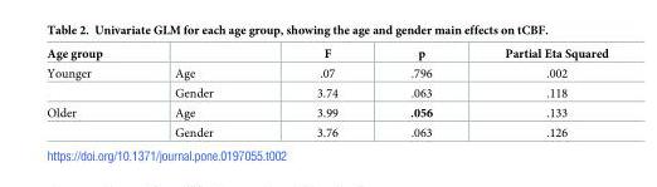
<table><thead><tr><td>Age group</td><td></td><td>F</td><td>p</td><td>Partial Eta Squared</td></tr></thead><tbody><tr><td rowspan="2">Younger</td><td>Age</td><td>.07</td><td>.796</td><td>.002</td></tr><tr><td>Gender</td><td>3.74</td><td>.063</td><td>.118</td></tr><tr><td rowspan="2">Older</td><td>Age</td><td>3.99</td><td>.056</td><td>.133</td></tr><tr><td>Gender</td><td>3.76</td><td>.063</td><td>.126</td></tr></tbody></table>